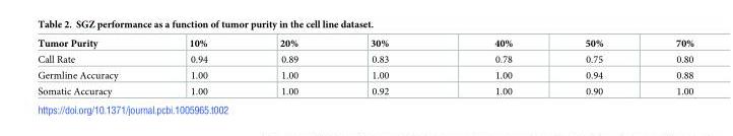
<table><thead><tr><td>Tumor Purity</td><td>10%</td><td>20%</td><td>30%</td><td>40%</td><td>50%</td><td>70%</td></tr></thead><tbody><tr><td>Call Rate</td><td>0.94</td><td>0.89</td><td>0.83</td><td>0.78</td><td>0.75</td><td>0.80</td></tr><tr><td>Germline Accuracy</td><td>1.00</td><td>1.00</td><td>1.00</td><td>1.00</td><td>0.94</td><td>0.88</td></tr><tr><td>Somatic Accuracy</td><td>1.00</td><td>1.00</td><td>0.92</td><td>1.00</td><td>0.90</td><td>1.00</td></tr></tbody></table>